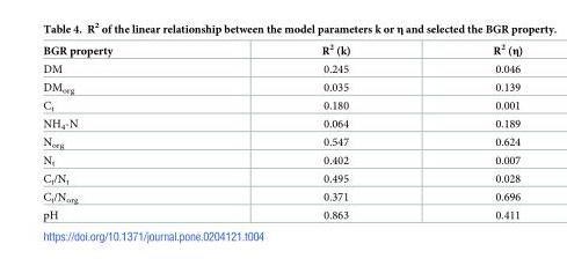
<table><thead><tr><td>BGR property</td><td>R<sup>2</sup> (k)</td><td>R<sup>2</sup> (η)</td></tr></thead><tbody><tr><td>DM</td><td>0.245</td><td>0.046</td></tr><tr><td>DM<sub>org</sub></td><td>0.035</td><td>0.139</td></tr><tr><td>C<sub>t</sub></td><td>0.180</td><td>0.001</td></tr><tr><td>NH<sub>4</sub>-N</td><td>0.064</td><td>0.189</td></tr><tr><td>N<sub>org</sub></td><td>0.547</td><td>0.624</td></tr><tr><td>N<sub>t</sub></td><td>0.402</td><td>0.007</td></tr><tr><td>C<sub>t</sub>/N<sub>t</sub></td><td>0.495</td><td>0.028</td></tr><tr><td>C<sub>t</sub>/N<sub>org</sub></td><td>0.371</td><td>0.696</td></tr><tr><td>pH</td><td>0.863</td><td>0.411</td></tr></tbody></table>